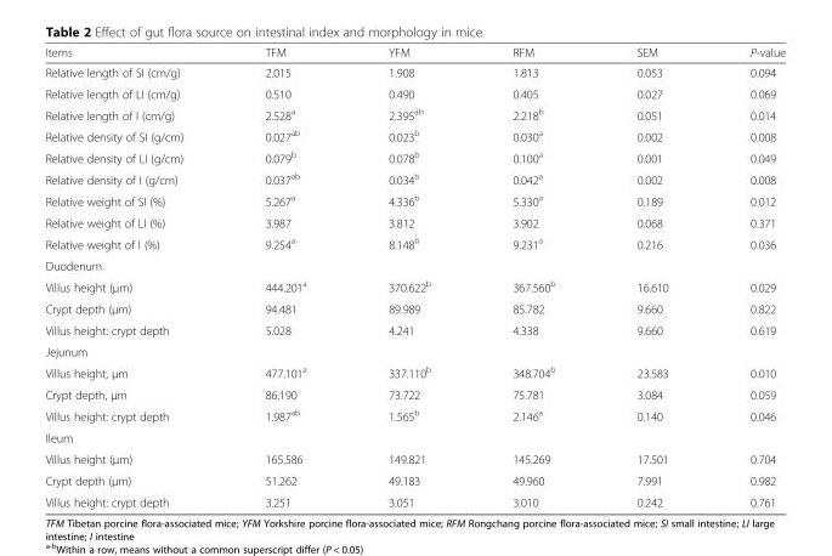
<table><thead><tr><td>Items</td><td>TFM</td><td>YFM</td><td>RFM</td><td>SEM</td><td>P-value</td></tr></thead><tbody><tr><td>Relative length of SI (cm/g)</td><td>2.015</td><td>1.908</td><td>1.813</td><td>0.053</td><td>0.094</td></tr><tr><td>Relative length of LI (cm/g)</td><td>0.510</td><td>0.490</td><td>0.405</td><td>0.027</td><td>0.069</td></tr><tr><td>Relative length of I (cm/g)</td><td>2.528<sup>a</sup></td><td>2.395<sup>ab</sup></td><td>2.218<sup>b</sup></td><td>0.051</td><td>0.014</td></tr><tr><td>Relative density of SI (g/cm)</td><td>0.027<sup>ab</sup></td><td>0.023<sup>b</sup></td><td>0.030<sup>a</sup></td><td>0.002</td><td>0.008</td></tr><tr><td>Relative density of LI (g/cm)</td><td>0.079<sup>b</sup></td><td>0.078<sup>b</sup></td><td>0.100<sup>a</sup></td><td>0.001</td><td>0.049</td></tr><tr><td>Relative density of I (g/cm)</td><td>0.037<sup>ab</sup></td><td>0.034<sup>b</sup></td><td>0.042<sup>a</sup></td><td>0.002</td><td>0.008</td></tr><tr><td>Relative weight of SI (%)</td><td>5.267<sup>a</sup></td><td>4.336<sup>b</sup></td><td>5.330<sup>a</sup></td><td>0.189</td><td>0.012</td></tr><tr><td>Relative weight of LI (%)</td><td>3.987</td><td>3.812</td><td>3.902</td><td>0.068</td><td>0.371</td></tr><tr><td>Relative weight of I (%)</td><td>9.254<sup>a</sup></td><td>8.148<sup>b</sup></td><td>9.231<sup>a</sup></td><td>0.216</td><td>0.036</td></tr><tr><td colspan="6">Duodenum</td></tr><tr><td>Villus height (μm)</td><td>444.201<sup>a</sup></td><td>370.622<sup>b</sup></td><td>367.560<sup>b</sup></td><td>16.610</td><td>0.029</td></tr><tr><td>Crypt depth (μm)</td><td>94.481</td><td>89.989</td><td>85.782</td><td>9.660</td><td>0.822</td></tr><tr><td>Villus height: crypt depth</td><td>5.028</td><td>4.241</td><td>4.338</td><td>9.660</td><td>0.619</td></tr><tr><td colspan="6">Jejunum</td></tr><tr><td>Villus height, μm</td><td>477.101<sup>a</sup></td><td>337.110<sup>b</sup></td><td>348.704<sup>b</sup></td><td>23.583</td><td>0.010</td></tr><tr><td>Crypt depth, μm</td><td>86.190</td><td>73.722</td><td>75.781</td><td>3.084</td><td>0.059</td></tr><tr><td>Villus height: crypt depth</td><td>1.987<sup>ab</sup></td><td>1.565<sup>b</sup></td><td>2.146<sup>a</sup></td><td>0.140</td><td>0.046</td></tr><tr><td colspan="6">Ileum</td></tr><tr><td>Villus height (μm)</td><td>165.586</td><td>149.821</td><td>145.269</td><td>17.501</td><td>0.704</td></tr><tr><td>Crypt depth (μm)</td><td>51.262</td><td>49.183</td><td>49.960</td><td>7.991</td><td>0.982</td></tr><tr><td>Villus height: crypt depth</td><td>3.251</td><td>3.051</td><td>3.010</td><td>0.242</td><td>0.761</td></tr></tbody></table>